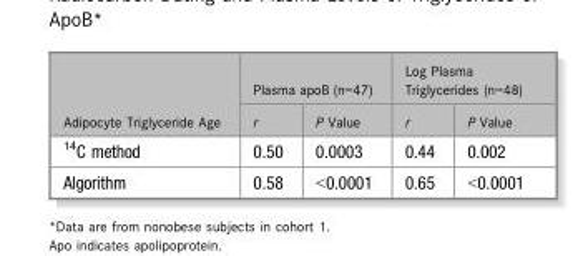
<table><thead><tr><td rowspan="2">Adipocyte Triglyceride Age</td><td colspan="2">Plasma apoB (n=47)</td><td colspan="2">Log Plasma Triglycerides (n=48)</td></tr><tr><td>r</td><td>P Value</td><td>r</td><td>P Value</td></tr></thead><tbody><tr><td><sup>14</sup>C method</td><td>0.50</td><td>0.0003</td><td>0.44</td><td>0.002</td></tr><tr><td>Algorithm</td><td>0.58</td><td>&lt;0.0001</td><td>0.65</td><td>&lt;0.0001</td></tr></tbody></table>